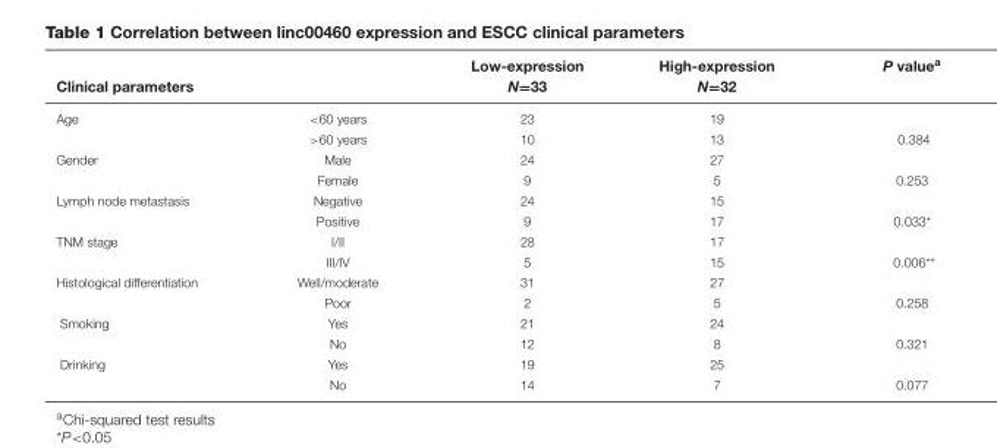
<table><thead><tr><td rowspan="2">Clinical parameters</td><td rowspan="2"></td><td rowspan="2">Low-expression N=33</td><td rowspan="2">High-expression N=32</td><td rowspan="2">P value<sup>a</sup></td></tr><tr></tr></thead><tbody><tr><td rowspan="2">Age</td><td>&lt;60 years</td><td>23</td><td>19</td><td></td></tr><tr><td>&gt;60 years</td><td>10</td><td>13</td><td>0.384</td></tr><tr><td rowspan="2">Gender</td><td>Male</td><td>24</td><td>27</td><td></td></tr><tr><td>Female</td><td>9</td><td>5</td><td>0.253</td></tr><tr><td rowspan="2">Lymph node metastasis</td><td>Negative</td><td>24</td><td>15</td><td></td></tr><tr><td>Positive</td><td>9</td><td>17</td><td>0.033*</td></tr><tr><td rowspan="2">TNM stage</td><td>I/II</td><td>28</td><td>17</td><td></td></tr><tr><td>III/IV</td><td>5</td><td>15</td><td>0.006**</td></tr><tr><td rowspan="2">Histological differentiation</td><td>Well/moderate</td><td>31</td><td>27</td><td></td></tr><tr><td>Poor</td><td>2</td><td>5</td><td>0.258</td></tr><tr><td rowspan="2">Smoking</td><td>Yes</td><td>21</td><td>24</td><td></td></tr><tr><td>No</td><td>12</td><td>8</td><td>0.321</td></tr><tr><td rowspan="2">Drinking</td><td>Yes</td><td>19</td><td>25</td><td></td></tr><tr><td>No</td><td>14</td><td>7</td><td>0.077</td></tr></tbody></table>